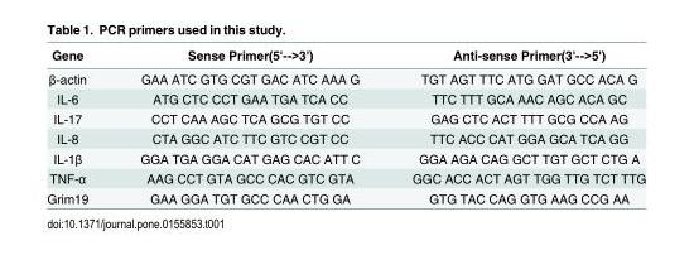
<table><thead><tr><td>Gene</td><td>Sense Primer(5&#x27;--&gt;3&#x27;)</td><td>Anti-sense Primer(3&#x27;--&gt;5&#x27;)</td></tr></thead><tbody><tr><td>β-actin</td><td>GAA ATC GTG CGT GAC ATC AAA G</td><td>TGT AGT TTC ATG GAT GCC ACA G</td></tr><tr><td>IL-6</td><td>ATG CTC CCT GAA TGA TCA CC</td><td>TTC TTT GCA AAC AGC ACA GC</td></tr><tr><td>IL-17</td><td>CCT CAA AGC TCA GCG TGT CC</td><td>GAG CTC ACT TTT GCG CCA AG</td></tr><tr><td>IL-8</td><td>CTA GGC ATC TTC GTC CGT CC</td><td>TTC ACC CAT GGA GCA TCA GG</td></tr><tr><td>IL-1β</td><td>GGA TGA GGA CAT GAG CAC ATT C</td><td>GGA AGA CAG GCT TGT GCT CTG A</td></tr><tr><td>TNF-α</td><td>AAG CCT GTA GCC CAC GTC GTA</td><td>GGC ACC ACT AGT TGG TTG TCT TTG</td></tr><tr><td>Grim19</td><td>GAA GGA TGT GCC CAA CTG GA</td><td>GTG TAC CAG GTG AAG CCG AA</td></tr></tbody></table>